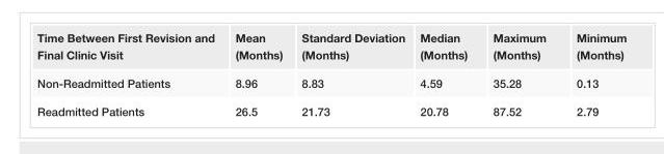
<table><tbody><tr><td>Time Between First Revision and Final Clinic Visit</td><td>Mean (Months)</td><td>Standard Deviation (Months)</td><td>Median (Months)</td><td>Maximum (Months)</td><td>Minimum (Months)</td></tr><tr><td>Non-Readmitted Patients</td><td>8.96</td><td>8.83</td><td>4.59</td><td>35.28</td><td>0.13</td></tr><tr><td>Readmitted Patients</td><td>26.5</td><td>21.73</td><td>20.78</td><td>87.52</td><td>2.79</td></tr></tbody></table>